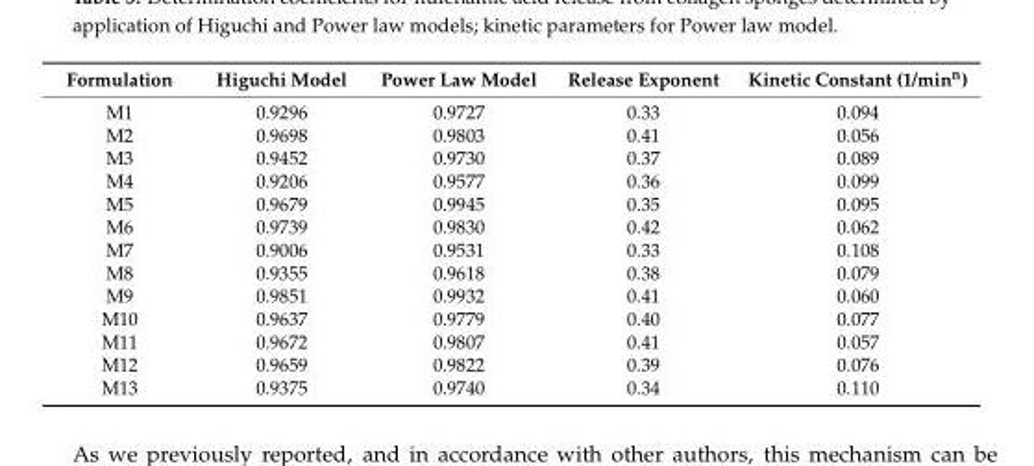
<table><thead><tr><td>Formulation</td><td>Higuchi Model</td><td>Power Law Model</td><td>Release Exponent</td><td>Kinetic Constant (1/min<sup>n</sup>)</td></tr></thead><tbody><tr><td>M1</td><td>0.9296</td><td>0.9727</td><td>0.33</td><td>0.094</td></tr><tr><td>M2</td><td>0.9698</td><td>0.9803</td><td>0.41</td><td>0.056</td></tr><tr><td>M3</td><td>0.9452</td><td>0.9730</td><td>0.37</td><td>0.089</td></tr><tr><td>M4</td><td>0.9206</td><td>0.9577</td><td>0.36</td><td>0.099</td></tr><tr><td>M5</td><td>0.9679</td><td>0.9945</td><td>0.35</td><td>0.095</td></tr><tr><td>M6</td><td>0.9739</td><td>0.9830</td><td>0.42</td><td>0.062</td></tr><tr><td>M7</td><td>0.9006</td><td>0.9531</td><td>0.33</td><td>0.108</td></tr><tr><td>M8</td><td>0.9355</td><td>0.9618</td><td>0.38</td><td>0.079</td></tr><tr><td>M9</td><td>0.9851</td><td>0.9932</td><td>0.41</td><td>0.060</td></tr><tr><td>M10</td><td>0.9637</td><td>0.9779</td><td>0.40</td><td>0.077</td></tr><tr><td>M11</td><td>0.9672</td><td>0.9807</td><td>0.41</td><td>0.057</td></tr><tr><td>M12</td><td>0.9659</td><td>0.9822</td><td>0.39</td><td>0.076</td></tr><tr><td>M13</td><td>0.9375</td><td>0.9740</td><td>0.34</td><td>0.110</td></tr></tbody></table>